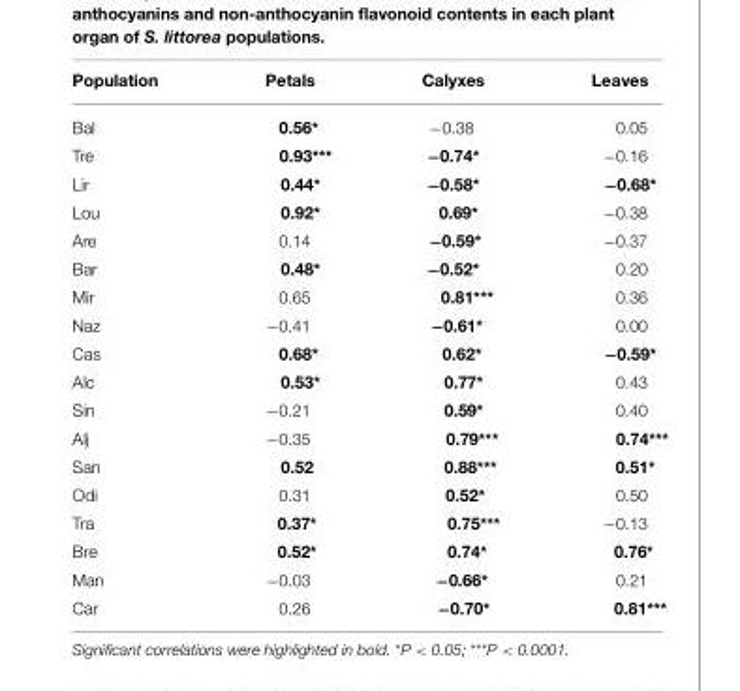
<table><thead><tr><td>Population</td><td>Petals</td><td>Calyxes</td><td>Leaves</td></tr></thead><tbody><tr><td>Bal</td><td>0.56*</td><td>−0.38</td><td>0.05</td></tr><tr><td>Tre</td><td>0.93***</td><td>−0.74*</td><td>−0.16</td></tr><tr><td>Lir</td><td>0.44*</td><td>−0.58*</td><td>−0.68*</td></tr><tr><td>Lou</td><td>0.92*</td><td>0.69*</td><td>−0.38</td></tr><tr><td>Are</td><td>0.14</td><td>−0.59*</td><td>−0.37</td></tr><tr><td>Bar</td><td>0.48*</td><td>−0.52*</td><td>0.20</td></tr><tr><td>Mir</td><td>0.65</td><td>0.81***</td><td>0.36</td></tr><tr><td>Naz</td><td>−0.41</td><td>−0.61*</td><td>0.00</td></tr><tr><td>Cas</td><td>0.68*</td><td>0.62*</td><td>−0.59*</td></tr><tr><td>Alc</td><td>0.53*</td><td>0.77*</td><td>0.43</td></tr><tr><td>Sin</td><td>−0.21</td><td>0.59*</td><td>0.40</td></tr><tr><td>Alj</td><td>−0.35</td><td>0.79***</td><td>0.74***</td></tr><tr><td>San</td><td>0.52</td><td>0.88***</td><td>0.51*</td></tr><tr><td>Odi</td><td>0.31</td><td>0.52*</td><td>0.50</td></tr><tr><td>Tra</td><td>0.37*</td><td>0.75***</td><td>−0.13</td></tr><tr><td>Bre</td><td>0.52*</td><td>0.74*</td><td>0.76*</td></tr><tr><td>Man</td><td>−0.03</td><td>−0.66*</td><td>0.21</td></tr><tr><td>Car</td><td>0.26</td><td>−0.70*</td><td>0.81***</td></tr></tbody></table>